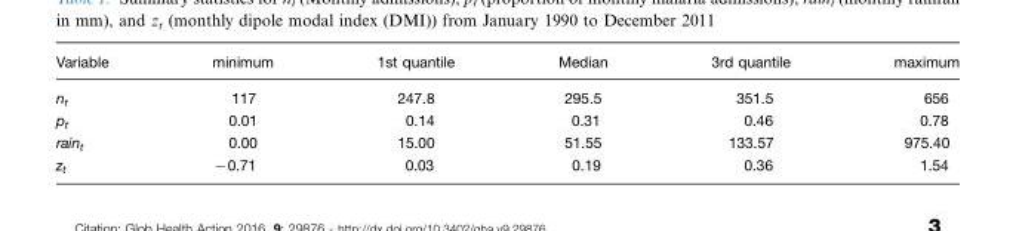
<table><thead><tr><td>Variable</td><td>minimum</td><td>1st quantile</td><td>Median</td><td>3rd quantile</td><td>maximum</td></tr></thead><tbody><tr><td>n<sub>t</sub></td><td>117</td><td>247.8</td><td>295.5</td><td>351.5</td><td>656</td></tr><tr><td>p<sub>t</sub></td><td>0.01</td><td>0.14</td><td>0.31</td><td>0.46</td><td>0.78</td></tr><tr><td>rain<sub>t</sub></td><td>0.00</td><td>15.00</td><td>51.55</td><td>133.57</td><td>975.40</td></tr><tr><td>z<sub>t</sub></td><td>−0.71</td><td>0.03</td><td>0.19</td><td>0.36</td><td>1.54</td></tr></tbody></table>